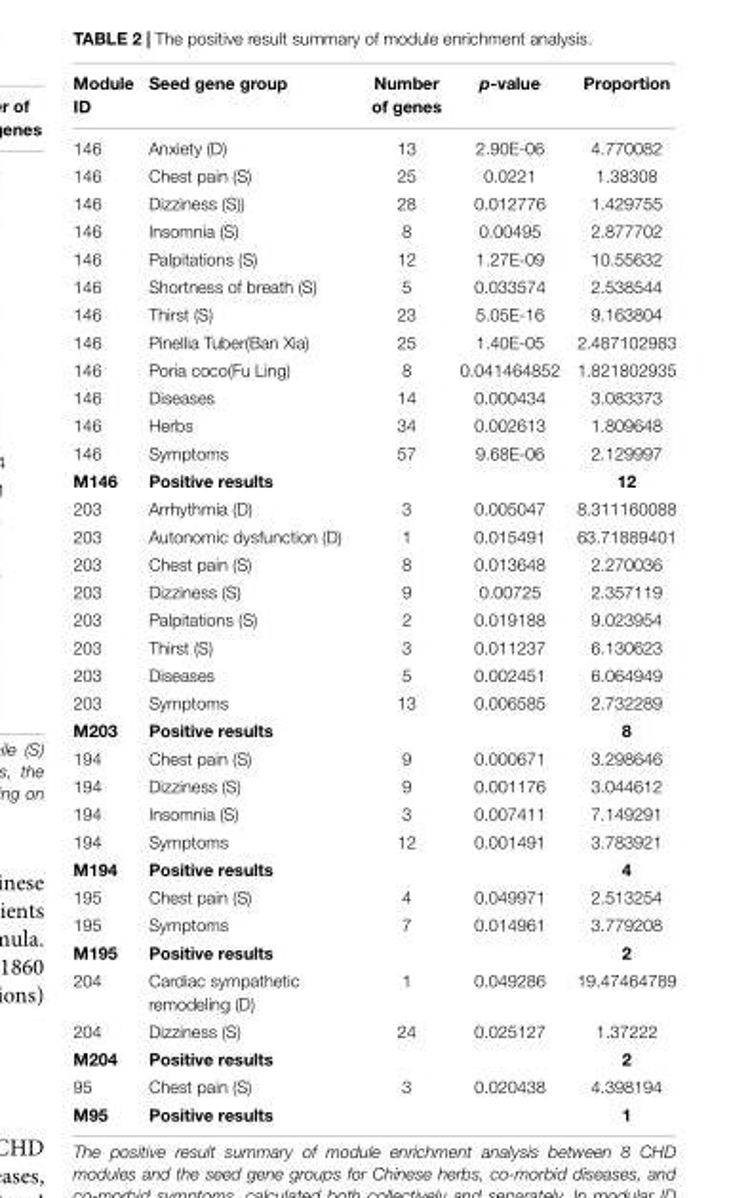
<table><thead><tr><td>Module ID</td><td>Seed gene group</td><td>Number of genes</td><td>p-value</td><td>Proportion</td></tr></thead><tbody><tr><td>146</td><td>Anxiety (D)</td><td>13</td><td>2.90E-06</td><td>4.770082</td></tr><tr><td>146</td><td>Chest pain (S)</td><td>25</td><td>0.0221</td><td>1.38308</td></tr><tr><td>146</td><td>Dizziness (S))</td><td>28</td><td>0.012776</td><td>1.429755</td></tr><tr><td>146</td><td>Insomnia (S)</td><td>8</td><td>0.00495</td><td>2.877702</td></tr><tr><td>146</td><td>Palpitations (S)</td><td>12</td><td>1.27E-09</td><td>10.55632</td></tr><tr><td>146</td><td>Shortness of breath (S)</td><td>5</td><td>0.033574</td><td>2.538544</td></tr><tr><td>146</td><td>Thirst (S)</td><td>23</td><td>5.05E-16</td><td>9.163804</td></tr><tr><td>146</td><td>Pinellia Tuber(Ban Xia)</td><td>25</td><td>1.40E-05</td><td>2.487102983</td></tr><tr><td>146</td><td>Poria coco(Fu Ling)</td><td>8</td><td>0.041464852</td><td>1.821802935</td></tr><tr><td>146</td><td>Diseases</td><td>14</td><td>0.000434</td><td>3.083373</td></tr><tr><td>146</td><td>Herbs</td><td>34</td><td>0.002613</td><td>1.809648</td></tr><tr><td>146</td><td>Symptoms</td><td>57</td><td>9.68E-06</td><td>2.129997</td></tr><tr><td>M146</td><td>Positive results</td><td></td><td></td><td>12</td></tr><tr><td>203</td><td>Arrhythmia (D)</td><td>3</td><td>0.005047</td><td>8.311160088</td></tr><tr><td>203</td><td>Autonomic dysfunction (D)</td><td>1</td><td>0.015491</td><td>63.71889401</td></tr><tr><td>203</td><td>Chest pain (S)</td><td>8</td><td>0.013648</td><td>2.270036</td></tr><tr><td>203</td><td>Dizziness (S)</td><td>9</td><td>0.00725</td><td>2.357119</td></tr><tr><td>203</td><td>Palpitations (S)</td><td>2</td><td>0.019188</td><td>9.023954</td></tr><tr><td>203</td><td>Thirst (S)</td><td>3</td><td>0.011237</td><td>6.130623</td></tr><tr><td>203</td><td>Diseases</td><td>5</td><td>0.002451</td><td>6.064949</td></tr><tr><td>203</td><td>Symptoms</td><td>13</td><td>0.006585</td><td>2.732289</td></tr><tr><td>M203</td><td>Positive results</td><td></td><td></td><td>8</td></tr><tr><td>194</td><td>Chest pain (S)</td><td>9</td><td>0.000671</td><td>3.298646</td></tr><tr><td>194</td><td>Dizziness (S)</td><td>9</td><td>0.001176</td><td>3.044612</td></tr><tr><td>194</td><td>Insomnia (S)</td><td>3</td><td>0.007411</td><td>7.149291</td></tr><tr><td>194</td><td>Symptoms</td><td>12</td><td>0.001491</td><td>3.783921</td></tr><tr><td>M194</td><td>Positive results</td><td></td><td></td><td>4</td></tr><tr><td>195</td><td>Chest pain (S)</td><td>4</td><td>0.049971</td><td>2.513254</td></tr><tr><td>195</td><td>Symptoms</td><td>7</td><td>0.014961</td><td>3.779208</td></tr><tr><td>M195</td><td>Positive results</td><td></td><td></td><td>2</td></tr><tr><td>204</td><td>Cardiac sympathetic remodeling (D)</td><td>1</td><td>0.049286</td><td>19.47464789</td></tr><tr><td>204</td><td>Dizziness (S)</td><td>24</td><td>0.025127</td><td>1.37222</td></tr><tr><td>M204</td><td>Positive results</td><td></td><td></td><td>2</td></tr><tr><td>95</td><td>Chest pain (S)</td><td>3</td><td>0.020438</td><td>4.398194</td></tr><tr><td>M95</td><td>Positive results</td><td></td><td></td><td>1</td></tr></tbody></table>